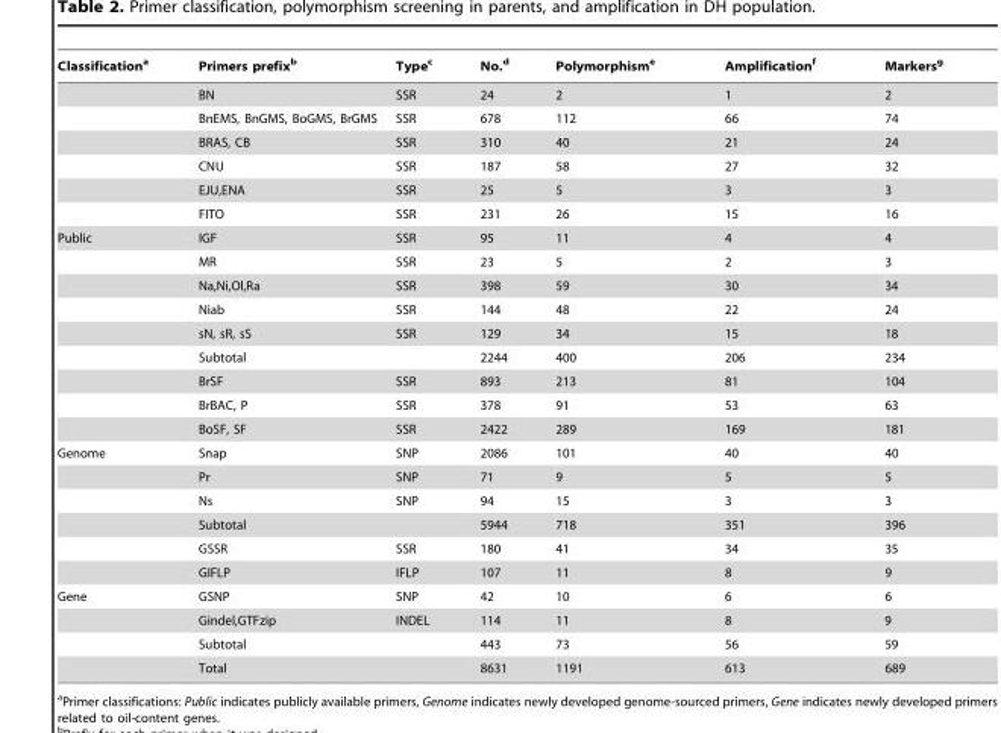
<table><thead><tr><td>Classification<sup>a</sup></td><td>Primers prefix<sup>b</sup></td><td>Type<sup>c</sup></td><td>No.<sup>d</sup></td><td>Polymorphism<sup>e</sup></td><td>Amplification<sup>f</sup></td><td>Markers<sup>g</sup></td></tr></thead><tbody><tr><td></td><td>BN</td><td>SSR</td><td>24</td><td>2</td><td>1</td><td>2</td></tr><tr><td></td><td>BnEMS, BnGMS, BoGMS, BrGMS</td><td>SSR</td><td>678</td><td>112</td><td>66</td><td>74</td></tr><tr><td></td><td>BRAS, CB</td><td>SSR</td><td>310</td><td>40</td><td>21</td><td>24</td></tr><tr><td></td><td>CNU</td><td>SSR</td><td>187</td><td>58</td><td>27</td><td>32</td></tr><tr><td></td><td>EJU,ENA</td><td>SSR</td><td>25</td><td>5</td><td>3</td><td>3</td></tr><tr><td></td><td>FITO</td><td>SSR</td><td>231</td><td>26</td><td>15</td><td>16</td></tr><tr><td rowspan="9">Public</td><td>IGF</td><td>SSR</td><td>95</td><td>11</td><td>4</td><td>4</td></tr><tr><td>MR</td><td>SSR</td><td>23</td><td>5</td><td>2</td><td>3</td></tr><tr><td>Na,Ni,Ol,Ra</td><td>SSR</td><td>398</td><td>59</td><td>30</td><td>34</td></tr><tr><td>Niab</td><td>SSR</td><td>144</td><td>48</td><td>22</td><td>24</td></tr><tr><td>sN, sR, sS</td><td>SSR</td><td>129</td><td>34</td><td>15</td><td>18</td></tr><tr><td>Subtotal</td><td></td><td>2244</td><td>400</td><td>206</td><td>234</td></tr><tr><td>BrSF</td><td>SSR</td><td>893</td><td>213</td><td>81</td><td>104</td></tr><tr><td>BrBAC, P</td><td>SSR</td><td>378</td><td>91</td><td>53</td><td>63</td></tr><tr><td>BoSF, SF</td><td>SSR</td><td>2422</td><td>289</td><td>169</td><td>181</td></tr><tr><td rowspan="6">Genome</td><td>Snap</td><td>SNP</td><td>2086</td><td>101</td><td>40</td><td>40</td></tr><tr><td>Pr</td><td>SNP</td><td>71</td><td>9</td><td>5</td><td>5</td></tr><tr><td>Ns</td><td>SNP</td><td>94</td><td>15</td><td>3</td><td>3</td></tr><tr><td>Subtotal</td><td></td><td>5944</td><td>718</td><td>351</td><td>396</td></tr><tr><td>GSSR</td><td>SSR</td><td>180</td><td>41</td><td>34</td><td>35</td></tr><tr><td>GIFLP</td><td>IFLP</td><td>107</td><td>11</td><td>8</td><td>9</td></tr><tr><td rowspan="4">Gene</td><td>GSNP</td><td>SNP</td><td>42</td><td>10</td><td>6</td><td>6</td></tr><tr><td>Gindel,GTFzip</td><td>INDEL</td><td>114</td><td>11</td><td>8</td><td>9</td></tr><tr><td>Subtotal</td><td></td><td>443</td><td>73</td><td>56</td><td>59</td></tr><tr><td>Total</td><td></td><td>8631</td><td>1191</td><td>613</td><td>689</td></tr></tbody></table>